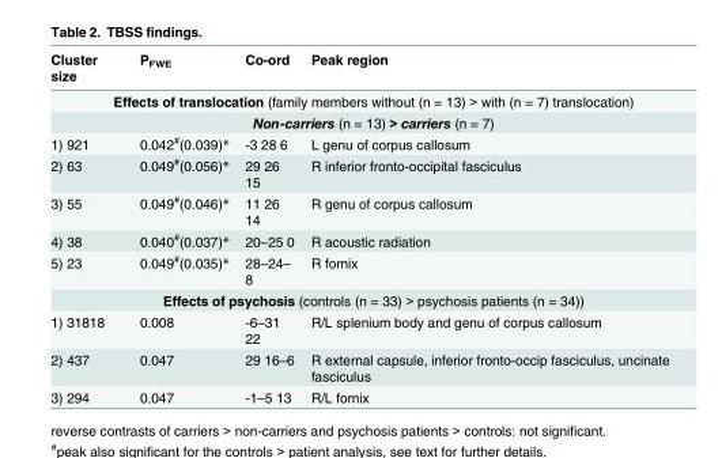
<table><thead><tr><td>Cluster size</td><td>P<sub>FWE</sub></td><td>Co-ord</td><td>Peak region</td></tr></thead><tbody><tr><td colspan="4">Effects of translocation (family members without (n = 13) &gt; with (n = 7) translocation)</td></tr><tr><td colspan="4">Non-carriers (n = 13) &gt; carriers (n = 7)</td></tr><tr><td>1) 921</td><td>0.042<sup>#</sup>(0.039)*</td><td>-3 28 6</td><td>L genu of corpus callosum</td></tr><tr><td>2) 63</td><td>0.049<sup>#</sup>(0.056)*</td><td>29 26 15</td><td>R inferior fronto-occipital fasciculus</td></tr><tr><td>3) 55</td><td>0.049<sup>#</sup>(0.046)*</td><td>11 26 14</td><td>R genu of corpus callosum</td></tr><tr><td>4) 38</td><td>0.040<sup>#</sup>(0.037)*</td><td>20–25 0</td><td>R acoustic radiation</td></tr><tr><td>5) 23</td><td>0.049<sup>#</sup>(0.035)*</td><td>28–24– 8</td><td>R fornix</td></tr><tr><td colspan="4">Effects of psychosis (controls (n = 33) &gt; psychosis patients (n = 34))</td></tr><tr><td>1) 31818</td><td>0.008</td><td>-6–31 22</td><td>R/L splenium body and genu of corpus callosum</td></tr><tr><td>2) 437</td><td>0.047</td><td>29 16–6</td><td>R external capsule, inferior fronto-occip fasciculus, uncinate fasciculus</td></tr><tr><td>3) 294</td><td>0.047</td><td>-1–5 13</td><td>R/L fornix</td></tr></tbody></table>